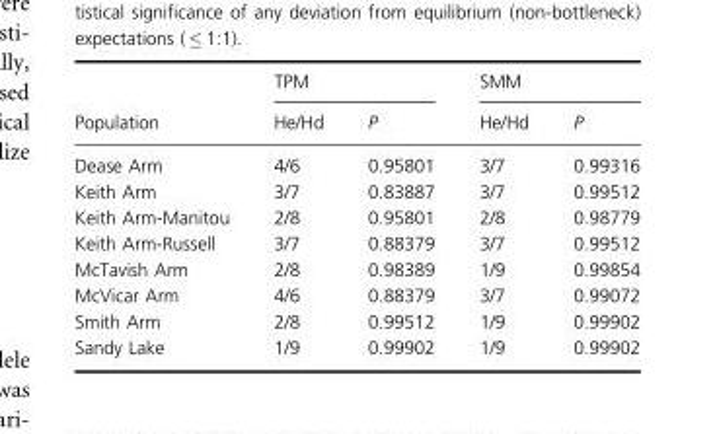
<table><thead><tr><td rowspan="2">Population</td><td colspan="2">TPM</td><td colspan="2">SMM</td></tr><tr><td>He/Hd</td><td>P</td><td>He/Hd</td><td>P</td></tr></thead><tbody><tr><td>Dease Arm</td><td>4/6</td><td>0.95801</td><td>3/7</td><td>0.99316</td></tr><tr><td>Keith Arm</td><td>3/7</td><td>0.83887</td><td>3/7</td><td>0.99512</td></tr><tr><td>Keith Arm-Manitou</td><td>2/8</td><td>0.95801</td><td>2/8</td><td>0.98779</td></tr><tr><td>Keith Arm-Russell</td><td>3/7</td><td>0.88379</td><td>3/7</td><td>0.99512</td></tr><tr><td>McTavish Arm</td><td>2/8</td><td>0.98389</td><td>1/9</td><td>0.99854</td></tr><tr><td>McVicar Arm</td><td>4/6</td><td>0.88379</td><td>3/7</td><td>0.99072</td></tr><tr><td>Smith Arm</td><td>2/8</td><td>0.99512</td><td>1/9</td><td>0.99902</td></tr><tr><td>Sandy Lake</td><td>1/9</td><td>0.99902</td><td>1/9</td><td>0.99902</td></tr></tbody></table>